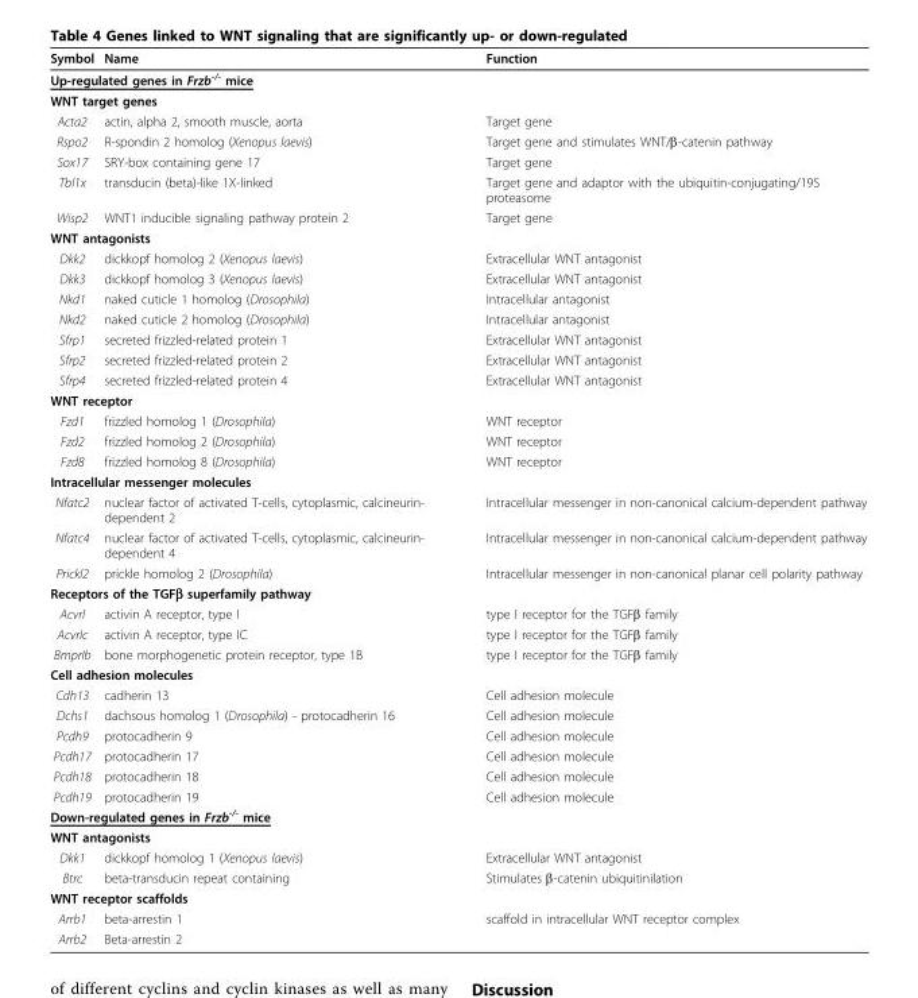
<table><thead><tr><td>Symbol</td><td>Name</td><td>Function</td></tr></thead><tbody><tr><td colspan="3">Up-regulated genes in Frzb<sup>-/-</sup> mice</td></tr><tr><td colspan="3">WNT target genes</td></tr><tr><td>Acta2</td><td>actin, alpha 2, smooth muscle, aorta</td><td>Target gene</td></tr><tr><td>Rspo2</td><td>R-spondin 2 homolog (Xenopus laevis)</td><td>Target gene and stimulates WNT/β-catenin pathway</td></tr><tr><td>Sox17</td><td>SRY-box containing gene 17</td><td>Target gene</td></tr><tr><td>Tbl1x</td><td>transducin (beta)-like 1X-linked</td><td>Target gene and adaptor with the ubiquitin-conjugating/19S proteasome</td></tr><tr><td>Wisp2</td><td>WNT1 inducible signaling pathway protein 2</td><td>Target gene</td></tr><tr><td colspan="3">WNT antagonists</td></tr><tr><td>Dkk2</td><td>dickkopf homolog 2 (Xenopus laevis)</td><td>Extracellular WNT antagonist</td></tr><tr><td>Dkk3</td><td>dickkopf homolog 3 (Xenopus laevis)</td><td>Extracellular WNT antagonist</td></tr><tr><td>Nkd1</td><td>naked cuticle 1 homolog (Drosophila)</td><td>Intracellular antagonist</td></tr><tr><td>Nkd2</td><td>naked cuticle 2 homolog (Drosophila)</td><td>Intracellular antagonist</td></tr><tr><td>Sfrp1</td><td>secreted frizzled-related protein 1</td><td>Extracellular WNT antagonist</td></tr><tr><td>Sfrp2</td><td>secreted frizzled-related protein 2</td><td>Extracellular WNT antagonist</td></tr><tr><td>Sfrp4</td><td>secreted frizzled-related protein 4</td><td>Extracellular WNT antagonist</td></tr><tr><td colspan="3">WNT receptor</td></tr><tr><td>Fzd1</td><td>frizzled homolog 1 (Drosophila)</td><td>WNT receptor</td></tr><tr><td>Fzd2</td><td>frizzled homolog 2 (Drosophila)</td><td>WNT receptor</td></tr><tr><td>Fzd8</td><td>frizzled homolog 8 (Drosophila)</td><td>WNT receptor</td></tr><tr><td colspan="3">Intracellular messenger molecules</td></tr><tr><td>Nfatc2</td><td>nuclear factor of activated T-cells, cytoplasmic, calcineurin- dependent 2</td><td>Intracellular messenger in non-canonical calcium-dependent pathway</td></tr><tr><td>Nfatc4</td><td>nuclear factor of activated T-cells, cytoplasmic, calcineurin- dependent 4</td><td>Intracellular messenger in non-canonical calcium-dependent pathway</td></tr><tr><td>Prickl2</td><td>prickle homolog 2 (Drosophila)</td><td>Intracellular messenger in non-canonical planar cell polarity pathway</td></tr><tr><td colspan="3">Receptors of the TGFβ superfamily pathway</td></tr><tr><td>AcvrI</td><td>activin A receptor, type I</td><td>type I receptor for the TGFβ family</td></tr><tr><td>AcvrIc</td><td>activin A receptor, type IC</td><td>type I receptor for the TGFβ family</td></tr><tr><td>BmprIb</td><td>bone morphogenetic protein receptor, type 1B</td><td>type I receptor for the TGFβ family</td></tr><tr><td colspan="3">Cell adhesion molecules</td></tr><tr><td>Cdh13</td><td>cadherin 13</td><td>Cell adhesion molecule</td></tr><tr><td>Dchs1</td><td>dachsous homolog 1 (Drosophila) - protocadherin 16</td><td>Cell adhesion molecule</td></tr><tr><td>Pcdh9</td><td>protocadherin 9</td><td>Cell adhesion molecule</td></tr><tr><td>Pcdh17</td><td>protocadherin 17</td><td>Cell adhesion molecule</td></tr><tr><td>Pcdh18</td><td>protocadherin 18</td><td>Cell adhesion molecule</td></tr><tr><td>Pcdh19</td><td>protocadherin 19</td><td>Cell adhesion molecule</td></tr><tr><td colspan="3">Down-regulated genes in Frzb<sup>-/-</sup> mice</td></tr><tr><td colspan="3">WNT antagonists</td></tr><tr><td>Dkk1</td><td>dickkopf homolog 1 (Xenopus laevis)</td><td>Extracellular WNT antagonist</td></tr><tr><td>Btrc</td><td>beta-transducin repeat containing</td><td>Stimulates β-catenin ubiquitinilation</td></tr><tr><td colspan="3">WNT receptor scaffolds</td></tr><tr><td>Arrb1</td><td>beta-arrestin 1</td><td>scaffold in intracellular WNT receptor complex</td></tr><tr><td>Arrb2</td><td>Beta-arrestin 2</td><td></td></tr></tbody></table>